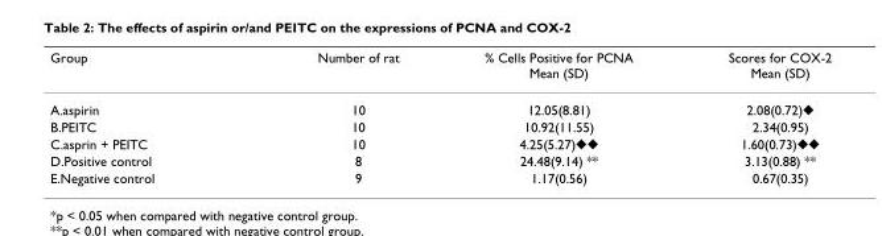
<table><thead><tr><td>Group</td><td>Number of rat</td><td>% Cells Positive for PCNA Mean (SD)</td><td>Scores for COX-2 Mean (SD)</td></tr></thead><tbody><tr><td>A.aspirin</td><td>10</td><td>12.05(8.81)</td><td>2.08(0.72)<sup>◆</sup></td></tr><tr><td>B.PEITC</td><td>10</td><td>10.92(11.55)</td><td>2.34(0.95)</td></tr><tr><td>C.asprin + PEITC</td><td>10</td><td>4.25(5.27)<sup>◆◆</sup></td><td>1.60(0.73)<sup>◆◆</sup></td></tr><tr><td>D.Positive control</td><td>8</td><td>24.48(9.14) **</td><td>3.13(0.88) **</td></tr><tr><td>E.Negative control</td><td>9</td><td>1.17(0.56)</td><td>0.67(0.35)</td></tr></tbody></table>